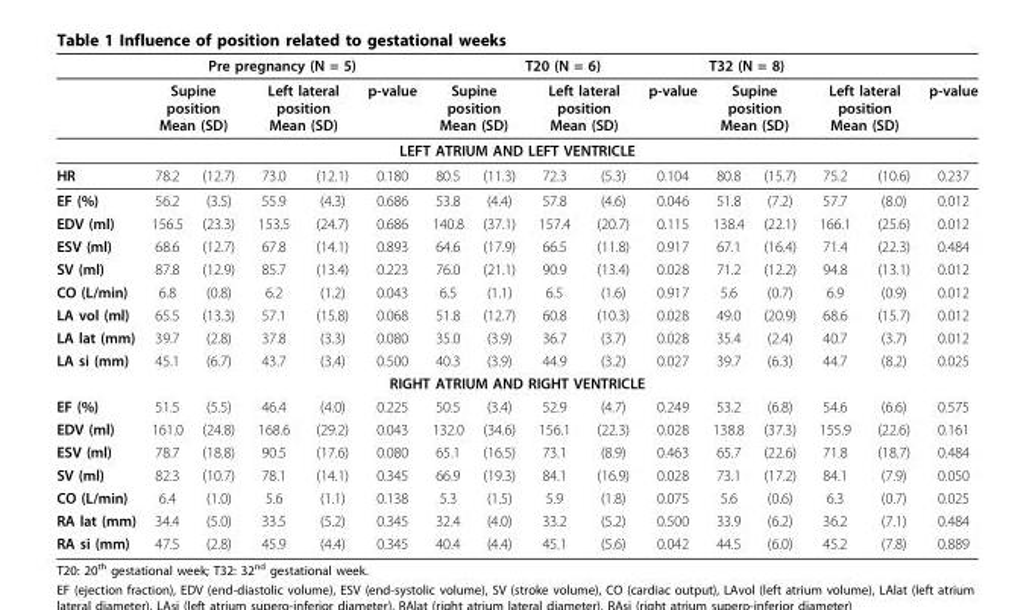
<table><thead><tr><td rowspan="2"></td><td colspan="5">Pre pregnancy (N = 5)</td><td colspan="5">T20 (N = 6)</td><td colspan="5">T32 (N = 8)</td></tr><tr><td colspan="2">Supine position Mean (SD)</td><td colspan="2">Left lateral position Mean (SD)</td><td>p-value</td><td colspan="2">Supine position Mean (SD)</td><td colspan="2">Left lateral position Mean (SD)</td><td>p-value</td><td colspan="2">Supine position Mean (SD)</td><td colspan="2">Left lateral position Mean (SD)</td><td>p-value</td></tr><tr><td colspan="16">LEFT ATRIUM AND LEFT VENTRICLE</td></tr><tr><td>HR</td><td>78.2</td><td>(12.7)</td><td>73.0</td><td>(12.1)</td><td>0.180</td><td>80.5</td><td>(11.3)</td><td>72.3</td><td>(5.3)</td><td>0.104</td><td>80.8</td><td>(15.7)</td><td>75.2</td><td>(10.6)</td><td>0.237</td></tr></thead><tbody><tr><td>EF (%)</td><td>56.2</td><td>(3.5)</td><td>55.9</td><td>(4.3)</td><td>0.686</td><td>53.8</td><td>(4.4)</td><td>57.8</td><td>(4.6)</td><td>0.046</td><td>51.8</td><td>(7.2)</td><td>57.7</td><td>(8.0)</td><td>0.012</td></tr><tr><td>EDV (ml)</td><td>156.5</td><td>(23.3)</td><td>153.5</td><td>(24.7)</td><td>0.686</td><td>140.8</td><td>(37.1)</td><td>157.4</td><td>(20.7)</td><td>0.115</td><td>138.4</td><td>(22.1)</td><td>166.1</td><td>(25.6)</td><td>0.012</td></tr><tr><td>ESV (ml)</td><td>68.6</td><td>(12.7)</td><td>67.8</td><td>(14.1)</td><td>0.893</td><td>64.6</td><td>(17.9)</td><td>66.5</td><td>(11.8)</td><td>0.917</td><td>67.1</td><td>(16.4)</td><td>71.4</td><td>(22.3)</td><td>0.484</td></tr><tr><td>SV (ml)</td><td>87.8</td><td>(12.9)</td><td>85.7</td><td>(13.4)</td><td>0.223</td><td>76.0</td><td>(21.1)</td><td>90.9</td><td>(13.4)</td><td>0.028</td><td>71.2</td><td>(12.2)</td><td>94.8</td><td>(13.1)</td><td>0.012</td></tr><tr><td>CO (L/min)</td><td>6.8</td><td>(0.8)</td><td>6.2</td><td>(1.2)</td><td>0.043</td><td>6.5</td><td>(1.1)</td><td>6.5</td><td>(1.6)</td><td>0.917</td><td>5.6</td><td>(0.7)</td><td>6.9</td><td>(0.9)</td><td>0.012</td></tr><tr><td>LA vol (ml)</td><td>65.5</td><td>(13.3)</td><td>57.1</td><td>(15.8)</td><td>0.068</td><td>51.8</td><td>(12.7)</td><td>60.8</td><td>(10.3)</td><td>0.028</td><td>49.0</td><td>(20.9)</td><td>68.6</td><td>(15.7)</td><td>0.012</td></tr><tr><td>LA lat (mm)</td><td>39.7</td><td>(2.8)</td><td>37.8</td><td>(3.3)</td><td>0.080</td><td>35.0</td><td>(3.9)</td><td>36.7</td><td>(3.7)</td><td>0.028</td><td>35.4</td><td>(2.4)</td><td>40.7</td><td>(3.7)</td><td>0.012</td></tr><tr><td>LA si (mm)</td><td>45.1</td><td>(6.7)</td><td>43.7</td><td>(3.4)</td><td>0.500</td><td>40.3</td><td>(3.9)</td><td>44.9</td><td>(3.2)</td><td>0.027</td><td>39.7</td><td>(6.3)</td><td>44.7</td><td>(8.2)</td><td>0.025</td></tr><tr><td colspan="16">RIGHT ATRIUM AND RIGHT VENTRICLE</td></tr><tr><td>EF (%)</td><td>51.5</td><td>(5.5)</td><td>46.4</td><td>(4.0)</td><td>0.225</td><td>50.5</td><td>(3.4)</td><td>52.9</td><td>(4.7)</td><td>0.249</td><td>53.2</td><td>(6.8)</td><td>54.6</td><td>(6.6)</td><td>0.575</td></tr><tr><td>EDV (ml)</td><td>161.0</td><td>(24.8)</td><td>168.6</td><td>(29.2)</td><td>0.043</td><td>132.0</td><td>(34.6)</td><td>156.1</td><td>(22.3)</td><td>0.028</td><td>138.8</td><td>(37.3)</td><td>155.9</td><td>(22.6)</td><td>0.161</td></tr><tr><td>ESV (ml)</td><td>78.7</td><td>(18.8)</td><td>90.5</td><td>(17.6)</td><td>0.080</td><td>65.1</td><td>(16.5)</td><td>73.1</td><td>(8.9)</td><td>0.463</td><td>65.7</td><td>(22.6)</td><td>71.8</td><td>(18.7)</td><td>0.484</td></tr><tr><td>SV (ml)</td><td>82.3</td><td>(10.7)</td><td>78.1</td><td>(14.1)</td><td>0.345</td><td>66.9</td><td>(19.3)</td><td>84.1</td><td>(16.9)</td><td>0.028</td><td>73.1</td><td>(17.2)</td><td>84.1</td><td>(7.9)</td><td>0.050</td></tr><tr><td>CO (L/min)</td><td>6.4</td><td>(1.0)</td><td>5.6</td><td>(1.1)</td><td>0.138</td><td>5.3</td><td>(1.5)</td><td>5.9</td><td>(1.8)</td><td>0.075</td><td>5.6</td><td>(0.6)</td><td>6.3</td><td>(0.7)</td><td>0.025</td></tr><tr><td>RA lat (mm)</td><td>34.4</td><td>(5.0)</td><td>33.5</td><td>(5.2)</td><td>0.345</td><td>32.4</td><td>(4.0)</td><td>33.2</td><td>(5.2)</td><td>0.500</td><td>33.9</td><td>(6.2)</td><td>36.2</td><td>(7.1)</td><td>0.484</td></tr><tr><td>RA si (mm)</td><td>47.5</td><td>(2.8)</td><td>45.9</td><td>(4.4)</td><td>0.345</td><td>40.4</td><td>(4.4)</td><td>45.1</td><td>(5.6)</td><td>0.042</td><td>44.5</td><td>(6.0)</td><td>45.2</td><td>(7.8)</td><td>0.889</td></tr></tbody></table>